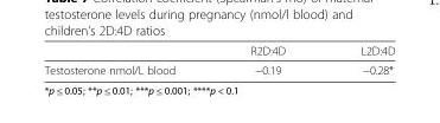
<table><thead><tr><td></td><td>R2D:4D</td><td>L2D:4D</td></tr></thead><tbody><tr><td>Testosterone nmol/L blood</td><td>−0.19</td><td>−0.28*</td></tr></tbody></table>